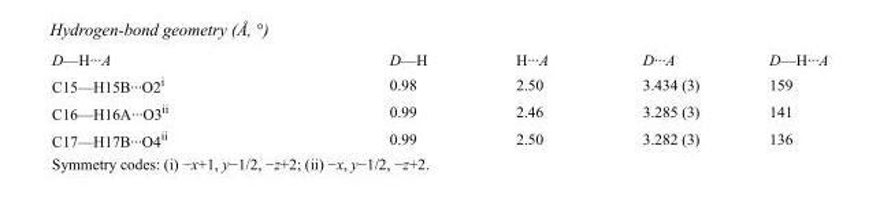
<table><tbody><tr><td>D—H···A</td><td>D—H</td><td>H···A</td><td>D···A</td><td>D—H···A</td></tr><tr><td>C15—H15B···O2<sup>i</sup></td><td>0.98</td><td>2.50</td><td>3.434 (3)</td><td>159</td></tr><tr><td>C16—H16A···O3<sup>ii</sup></td><td>0.99</td><td>2.46</td><td>3.285 (3)</td><td>141</td></tr><tr><td>C17—H17B···O4<sup>ii</sup></td><td>0.99</td><td>2.50</td><td>3.282 (3)</td><td>136</td></tr></tbody></table>